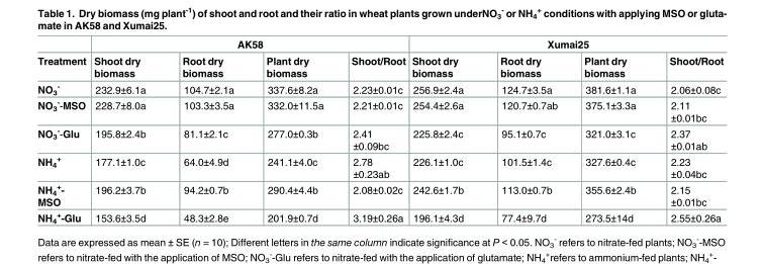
<table><thead><tr><td rowspan="2">Treatment</td><td colspan="4">AK58</td><td colspan="4">Xumai25</td></tr><tr><td>Shoot dry biomass</td><td>Root dry biomass</td><td>Plant dry biomass</td><td>Shoot/Root</td><td>Shoot dry biomass</td><td>Root dry biomass</td><td>Plant dry biomass</td><td>Shoot/Root</td></tr></thead><tbody><tr><td>NO<sub>3</sub> <sup>-</sup></td><td>232.9±6.1a</td><td>104.7±2.1a</td><td>337.6±8.2a</td><td>2.23±0.01c</td><td>256.9±2.4a</td><td>124.7±3.5a</td><td>381.6±1.1a</td><td>2.06±0.08c</td></tr><tr><td>NO<sub>3</sub> <sup>-</sup>-MSO</td><td>228.7±8.0a</td><td>103.3±3.5a</td><td>332.0±11.5a</td><td>2.21±0.01c</td><td>254.4±2.6a</td><td>120.7±0.7ab</td><td>375.1±3.3a</td><td>2.11 ±0.01bc</td></tr><tr><td>NO<sub>3</sub> <sup>-</sup>-Glu</td><td>195.8±2.4b</td><td>81.1±2.1c</td><td>277.0±0.3b</td><td>2.41 ±0.09bc</td><td>225.8±2.4c</td><td>95.1±0.7c</td><td>321.0±3.1c</td><td>2.37 ±0.01ab</td></tr><tr><td>NH<sub>4</sub> <sup>+</sup></td><td>177.1±1.0c</td><td>64.0±4.9d</td><td>241.1±4.0c</td><td>2.78 ±0.23ab</td><td>226.1±1.0c</td><td>101.5±1.4c</td><td>327.6±0.4c</td><td>2.23 ±0.04bc</td></tr><tr><td>NH<sub>4</sub> <sup>+</sup>- MSO</td><td>196.2±3.7b</td><td>94.2±0.7b</td><td>290.4±4.4b</td><td>2.08±0.02c</td><td>242.6±1.7b</td><td>113.0±0.7b</td><td>355.6±2.4b</td><td>2.15 ±0.01bc</td></tr><tr><td>NH<sub>4</sub> <sup>+</sup>-Glu</td><td>153.6±3.5d</td><td>48.3±2.8e</td><td>201.9±0.7d</td><td>3.19±0.26a</td><td>196.1±4.3d</td><td>77.4±9.7d</td><td>273.5±14d</td><td>2.55±0.26a</td></tr></tbody></table>